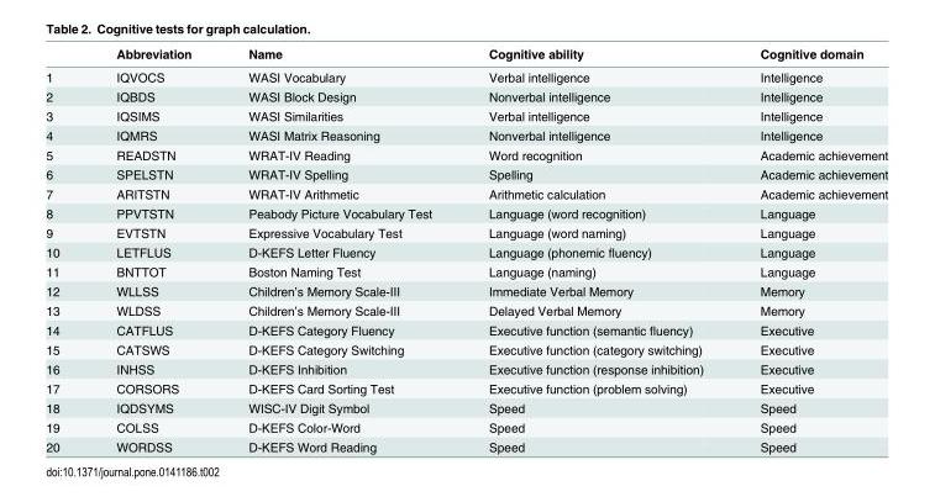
<table><thead><tr><td></td><td>Abbreviation</td><td>Name</td><td>Cognitive ability</td><td>Cognitive domain</td></tr></thead><tbody><tr><td>1</td><td>IQVOCS</td><td>WASI Vocabulary</td><td>Verbal intelligence</td><td>Intelligence</td></tr><tr><td>2</td><td>IQBDS</td><td>WASI Block Design</td><td>Nonverbal intelligence</td><td>Intelligence</td></tr><tr><td>3</td><td>IQSIMS</td><td>WASI Similarities</td><td>Verbal intelligence</td><td>Intelligence</td></tr><tr><td>4</td><td>IQMRS</td><td>WASI Matrix Reasoning</td><td>Nonverbal intelligence</td><td>Intelligence</td></tr><tr><td>5</td><td>READSTN</td><td>WRAT-IV Reading</td><td>Word recognition</td><td>Academic achievement</td></tr><tr><td>6</td><td>SPELSTN</td><td>WRAT-IV Spelling</td><td>Spelling</td><td>Academic achievement</td></tr><tr><td>7</td><td>ARITSTN</td><td>WRAT-IV Arithmetic</td><td>Arithmetic calculation</td><td>Academic achievement</td></tr><tr><td>8</td><td>PPVTSTN</td><td>Peabody Picture Vocabulary Test</td><td>Language (word recognition)</td><td>Language</td></tr><tr><td>9</td><td>EVTSTN</td><td>Expressive Vocabulary Test</td><td>Language (word naming)</td><td>Language</td></tr><tr><td>10</td><td>LETFLUS</td><td>D-KEFS Letter Fluency</td><td>Language (phonemic fluency)</td><td>Language</td></tr><tr><td>11</td><td>BNTTOT</td><td>Boston Naming Test</td><td>Language (naming)</td><td>Language</td></tr><tr><td>12</td><td>WLLSS</td><td>Children’s Memory Scale-III</td><td>Immediate Verbal Memory</td><td>Memory</td></tr><tr><td>13</td><td>WLDSS</td><td>Children’s Memory Scale-III</td><td>Delayed Verbal Memory</td><td>Memory</td></tr><tr><td>14</td><td>CATFLUS</td><td>D-KEFS Category Fluency</td><td>Executive function (semantic fluency)</td><td>Executive</td></tr><tr><td>15</td><td>CATSWS</td><td>D-KEFS Category Switching</td><td>Executive function (category switching)</td><td>Executive</td></tr><tr><td>16</td><td>INHSS</td><td>D-KEFS Inhibition</td><td>Executive function (response inhibition)</td><td>Executive</td></tr><tr><td>17</td><td>CORSORS</td><td>D-KEFS Card Sorting Test</td><td>Executive function (problem solving)</td><td>Executive</td></tr><tr><td>18</td><td>IQDSYMS</td><td>WISC-IV Digit Symbol</td><td>Speed</td><td>Speed</td></tr><tr><td>19</td><td>COLSS</td><td>D-KEFS Color-Word</td><td>Speed</td><td>Speed</td></tr><tr><td>20</td><td>WORDSS</td><td>D-KEFS Word Reading</td><td>Speed</td><td>Speed</td></tr></tbody></table>